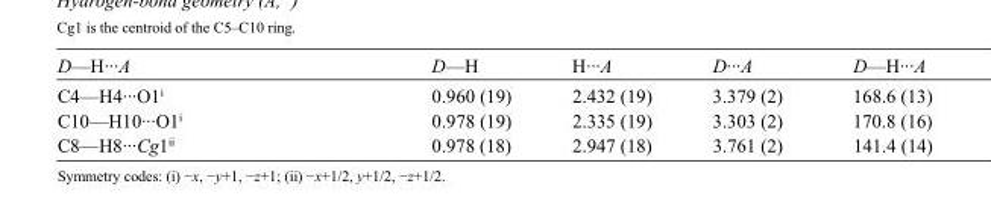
<table><tbody><tr><td>D—H···A</td><td>D—H</td><td>H···A</td><td>D···A</td><td>D—H···A</td></tr><tr><td>C4—H4···O1<sup>i</sup></td><td>0.960 (19)</td><td>2.432 (19)</td><td>3.379 (2)</td><td>168.6 (13)</td></tr><tr><td>C10—H10···O1<sup>i</sup></td><td>0.978 (19)</td><td>2.335 (19)</td><td>3.303 (2)</td><td>170.8 (16)</td></tr><tr><td>C8—H8···Cg1<sup>ii</sup></td><td>0.978 (18)</td><td>2.947 (18)</td><td>3.761 (2)</td><td>141.4 (14)</td></tr></tbody></table>